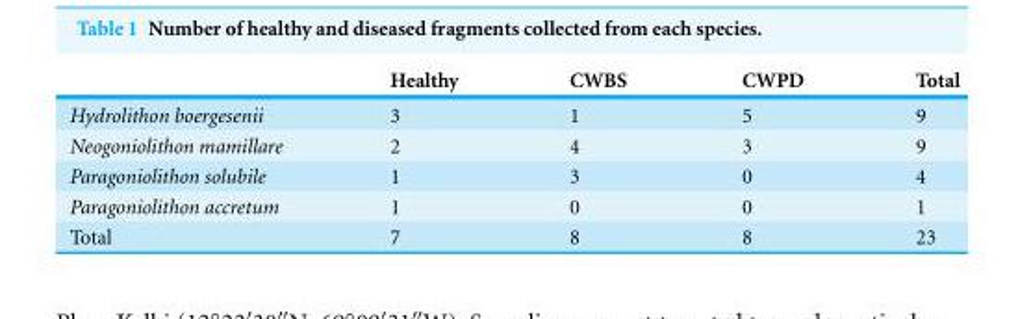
<table><thead><tr><td></td><td>Healthy</td><td>CWBS</td><td>CWPD</td><td>Total</td></tr></thead><tbody><tr><td>Hydrolithon boergesenii</td><td>3</td><td>1</td><td>5</td><td>9</td></tr><tr><td>Neogoniolithon mamillare</td><td>2</td><td>4</td><td>3</td><td>9</td></tr><tr><td>Paragoniolithon solubile</td><td>1</td><td>3</td><td>0</td><td>4</td></tr><tr><td>Paragoniolithon accretum</td><td>1</td><td>0</td><td>0</td><td>1</td></tr><tr><td>Total</td><td>7</td><td>8</td><td>8</td><td>23</td></tr></tbody></table>